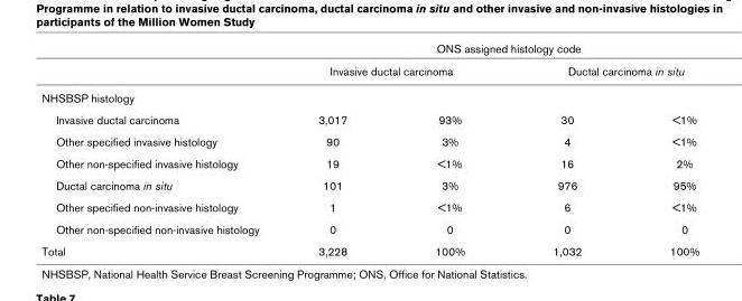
<table><thead><tr><td rowspan="3">NHSBSP histology</td><td colspan="4">ONS assigned histology code</td></tr><tr><td colspan="2">Invasive ductal carcinoma</td><td colspan="2">Ductal carcinoma in situ</td></tr><tr><td></td><td></td><td></td><td></td></tr></thead><tbody><tr><td>Invasive ductal carcinoma</td><td>3,017</td><td>93%</td><td>30</td><td>&lt;1%</td></tr><tr><td>Other specified invasive histology</td><td>90</td><td>3%</td><td>4</td><td>&lt;1%</td></tr><tr><td>Other non-specified invasive histology</td><td>19</td><td>&lt;1%</td><td>16</td><td>2%</td></tr><tr><td>Ductal carcinoma in situ</td><td>101</td><td>3%</td><td>976</td><td>95%</td></tr><tr><td>Other specified non-invasive histology</td><td>1</td><td>&lt;1%</td><td>6</td><td>&lt;1%</td></tr><tr><td>Other non-specified non-invasive histology</td><td>0</td><td>0</td><td>0</td><td>0</td></tr><tr><td>Total</td><td>3,228</td><td>100%</td><td>1,032</td><td>100%</td></tr></tbody></table>